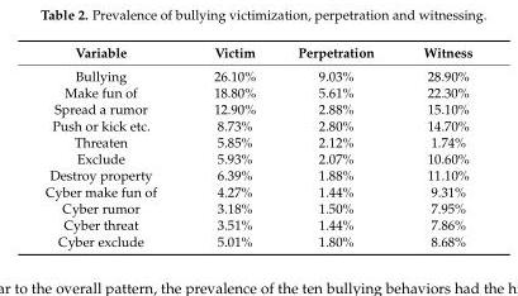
<table><thead><tr><td>Variable</td><td>Victim</td><td>Perpetration</td><td>Witness</td></tr></thead><tbody><tr><td>Bullying</td><td>26.10%</td><td>9.03%</td><td>28.90%</td></tr><tr><td>Make fun of</td><td>18.80%</td><td>5.61%</td><td>22.30%</td></tr><tr><td>Spread a rumor</td><td>12.90%</td><td>2.88%</td><td>15.10%</td></tr><tr><td>Push or kick etc.</td><td>8.73%</td><td>2.80%</td><td>14.70%</td></tr><tr><td>Threaten</td><td>5.85%</td><td>2.12%</td><td>1.74%</td></tr><tr><td>Exclude</td><td>5.93%</td><td>2.07%</td><td>10.60%</td></tr><tr><td>Destroy property</td><td>6.39%</td><td>1.88%</td><td>11.10%</td></tr><tr><td>Cyber make fun of</td><td>4.27%</td><td>1.44%</td><td>9.31%</td></tr><tr><td>Cyber rumor</td><td>3.18%</td><td>1.50%</td><td>7.95%</td></tr><tr><td>Cyber threat</td><td>3.51%</td><td>1.44%</td><td>7.86%</td></tr><tr><td>Cyber exclude</td><td>5.01%</td><td>1.80%</td><td>8.68%</td></tr></tbody></table>